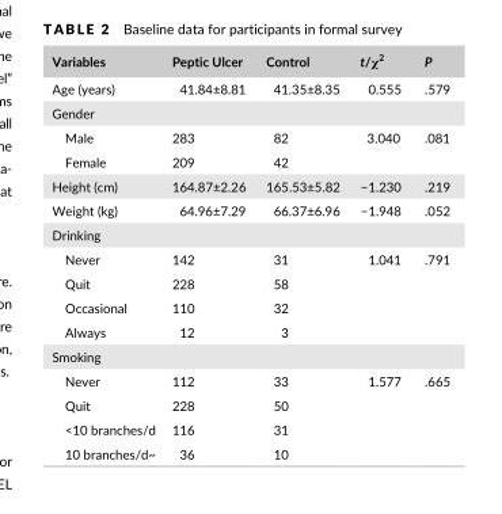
<table><thead><tr><td>Variables</td><td>Peptic Ulcer</td><td>Control</td><td>t/χ<sup>2</sup></td><td>P</td></tr></thead><tbody><tr><td>Age (years)</td><td>41.84±8.81</td><td>41.35±8.35</td><td>0.555</td><td>.579</td></tr><tr><td colspan="5">Gender</td></tr><tr><td>Male</td><td>283</td><td>82</td><td>3.040</td><td>.081</td></tr><tr><td>Female</td><td>209</td><td>42</td><td></td><td></td></tr><tr><td>Height (cm)</td><td>164.87±2.26</td><td>165.53±5.82</td><td>−1.230</td><td>.219</td></tr><tr><td>Weight (kg)</td><td>64.96±7.29</td><td>66.37±6.96</td><td>−1.948</td><td>.052</td></tr><tr><td colspan="5">Drinking</td></tr><tr><td>Never</td><td>142</td><td>31</td><td>1.041</td><td>.791</td></tr><tr><td>Quit</td><td>228</td><td>58</td><td></td><td></td></tr><tr><td>Occasional</td><td>110</td><td>32</td><td></td><td></td></tr><tr><td>Always</td><td>12</td><td>3</td><td></td><td></td></tr><tr><td colspan="5">Smoking</td></tr><tr><td>Never</td><td>112</td><td>33</td><td>1.577</td><td>.665</td></tr><tr><td>Quit</td><td>228</td><td>50</td><td></td><td></td></tr><tr><td>&lt;10 branches/d</td><td>116</td><td>31</td><td></td><td></td></tr><tr><td>10 branches/d~</td><td>36</td><td>10</td><td></td><td></td></tr></tbody></table>